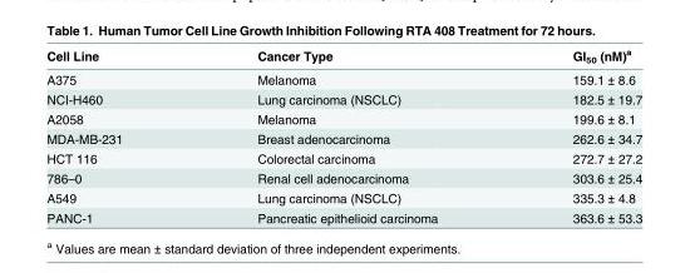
<table><thead><tr><td>Cell Line</td><td>Cancer Type</td><td>GI<sub>50</sub> (nM)<sup>a</sup></td></tr></thead><tbody><tr><td>A375</td><td>Melanoma</td><td>159.1 ± 8.6</td></tr><tr><td>NCI-H460</td><td>Lung carcinoma (NSCLC)</td><td>182.5 ± 19.7</td></tr><tr><td>A2058</td><td>Melanoma</td><td>199.6 ± 8.1</td></tr><tr><td>MDA-MB-231</td><td>Breast adenocarcinoma</td><td>262.6 ± 34.7</td></tr><tr><td>HCT 116</td><td>Colorectal carcinoma</td><td>272.7 ± 27.2</td></tr><tr><td>786–0</td><td>Renal cell adenocarcinoma</td><td>303.6 ± 25.4</td></tr><tr><td>A549</td><td>Lung carcinoma (NSCLC)</td><td>335.3 ± 4.8</td></tr><tr><td>PANC-1</td><td>Pancreatic epithelioid carcinoma</td><td>363.6 ± 53.3</td></tr></tbody></table>